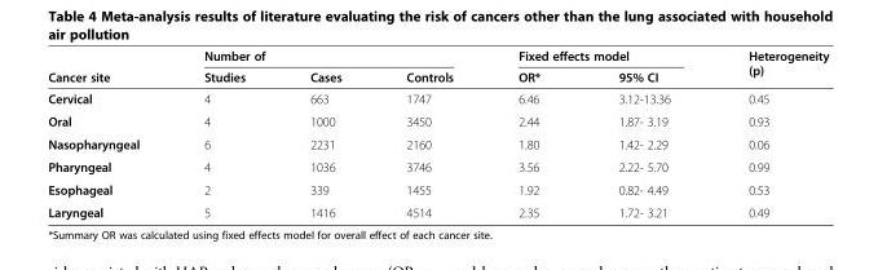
<table><thead><tr><td rowspan="2">Cancer site</td><td colspan="3">Number of</td><td colspan="2">Fixed effects model</td><td rowspan="2">Heterogeneity (p)</td></tr><tr><td>Studies</td><td>Cases</td><td>Controls</td><td>OR*</td><td>95% CI</td></tr></thead><tbody><tr><td>Cervical</td><td>4</td><td>663</td><td>1747</td><td>6.46</td><td>3.12-13.36</td><td>0.45</td></tr><tr><td>Oral</td><td>4</td><td>1000</td><td>3450</td><td>2.44</td><td>1.87- 3.19</td><td>0.93</td></tr><tr><td>Nasopharyngeal</td><td>6</td><td>2231</td><td>2160</td><td>1.80</td><td>1.42- 2.29</td><td>0.06</td></tr><tr><td>Pharyngeal</td><td>4</td><td>1036</td><td>3746</td><td>3.56</td><td>2.22- 5.70</td><td>0.99</td></tr><tr><td>Esophageal</td><td>2</td><td>339</td><td>1455</td><td>1.92</td><td>0.82- 4.49</td><td>0.53</td></tr><tr><td>Laryngeal</td><td>5</td><td>1416</td><td>4514</td><td>2.35</td><td>1.72- 3.21</td><td>0.49</td></tr></tbody></table>